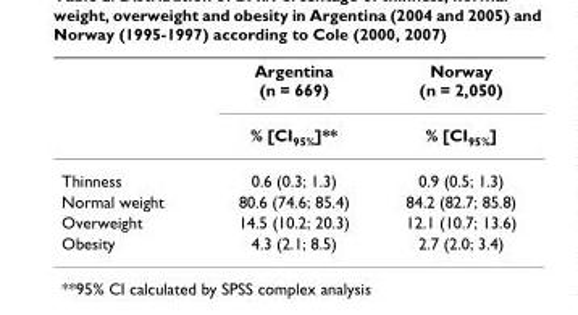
<table><thead><tr><td rowspan="2"></td><td rowspan="2">Argentina (n = 669) % [CI95%]**</td><td rowspan="2">Norway (n = 2,050) % [CI95%]</td></tr><tr></tr></thead><tbody><tr><td>Thinness</td><td>0.6 (0.3; 1.3)</td><td>0.9 (0.5; 1.3)</td></tr><tr><td>Normal weight</td><td>80.6 (74.6; 85.4)</td><td>84.2 (82.7; 85.8)</td></tr><tr><td>Overweight</td><td>14.5 (10.2; 20.3)</td><td>12.1 (10.7; 13.6)</td></tr><tr><td>Obesity</td><td>4.3 (2.1; 8.5)</td><td>2.7 (2.0; 3.4)</td></tr></tbody></table>